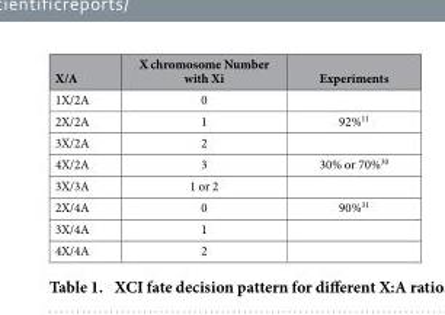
<table><thead><tr><td>X/A</td><td>X chromosome Number with Xi</td><td>Experiments</td></tr></thead><tbody><tr><td>1X/2A</td><td>0</td><td></td></tr><tr><td>2X/2A</td><td>1</td><td>92%<sup>11</sup></td></tr><tr><td>3X/2A</td><td>2</td><td></td></tr><tr><td>4X/2A</td><td>3</td><td>30% or 70%<sup>30</sup></td></tr><tr><td>3X/3A</td><td>1 or 2</td><td></td></tr><tr><td>2X/4A</td><td>0</td><td>90%<sup>31</sup></td></tr><tr><td>3X/4A</td><td>1</td><td></td></tr><tr><td>4X/4A</td><td>2</td><td></td></tr></tbody></table>